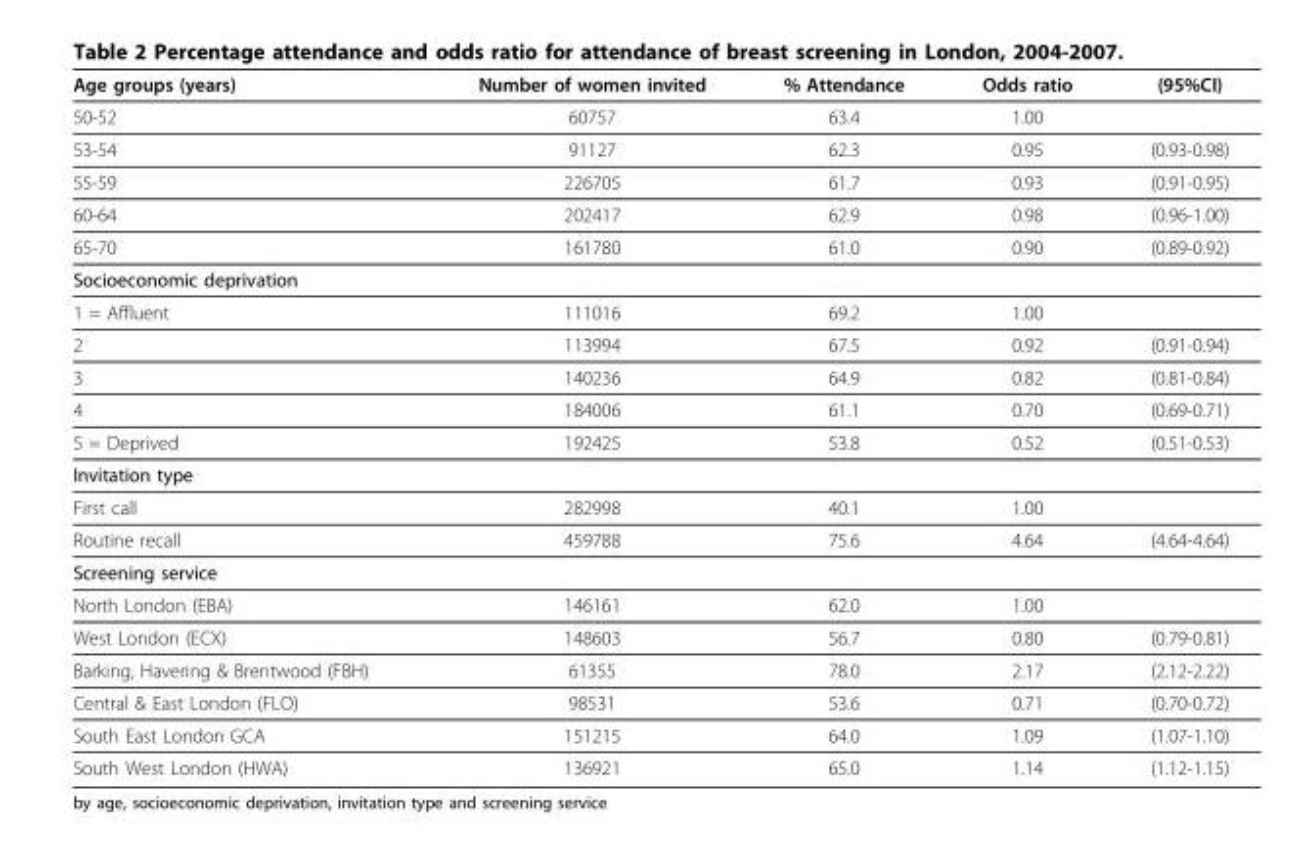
<table><thead><tr><td>Age groups (years)</td><td>Number of women invited</td><td>% Attendance</td><td>Odds ratio</td><td>(95%CI)</td></tr></thead><tbody><tr><td>50-52</td><td>60757</td><td>63.4</td><td>1.00</td><td></td></tr><tr><td>53-54</td><td>91127</td><td>62.3</td><td>0.95</td><td>(0.93-0.98)</td></tr><tr><td>55-59</td><td>226705</td><td>61.7</td><td>0.93</td><td>(0.91-0.95)</td></tr><tr><td>60-64</td><td>202417</td><td>62.9</td><td>0.98</td><td>(0.96-1.00)</td></tr><tr><td>65-70</td><td>161780</td><td>61.0</td><td>0.90</td><td>(0.89-0.92)</td></tr><tr><td colspan="5">Socioeconomic deprivation</td></tr><tr><td>1 = Affluent</td><td>111016</td><td>69.2</td><td>1.00</td><td></td></tr><tr><td>2</td><td>113994</td><td>67.5</td><td>0.92</td><td>(0.91-0.94)</td></tr><tr><td>3</td><td>140236</td><td>64.9</td><td>0.82</td><td>(0.81-0.84)</td></tr><tr><td>4</td><td>184006</td><td>61.1</td><td>0.70</td><td>(0.69-0.71)</td></tr><tr><td>5 = Deprived</td><td>192425</td><td>53.8</td><td>0.52</td><td>(0.51-0.53)</td></tr><tr><td colspan="5">Invitation type</td></tr><tr><td>First call</td><td>282998</td><td>40.1</td><td>1.00</td><td></td></tr><tr><td>Routine recall</td><td>459788</td><td>75.6</td><td>4.64</td><td>(4.64-4.64)</td></tr><tr><td colspan="5">Screening service</td></tr><tr><td>North London (EBA)</td><td>146161</td><td>62.0</td><td>1.00</td><td></td></tr><tr><td>West London (ECX)</td><td>148603</td><td>56.7</td><td>0.80</td><td>(0.79-0.81)</td></tr><tr><td>Barking, Havering &amp; Brentwood (FBH)</td><td>61355</td><td>78.0</td><td>2.17</td><td>(2.12-2.22)</td></tr><tr><td>Central &amp; East London (FLO)</td><td>98531</td><td>53.6</td><td>0.71</td><td>(0.70-0.72)</td></tr><tr><td>South East London GCA</td><td>151215</td><td>64.0</td><td>1.09</td><td>(1.07-1.10)</td></tr><tr><td>South West London (HWA)</td><td>136921</td><td>65.0</td><td>1.14</td><td>(1.12-1.15)</td></tr></tbody></table>